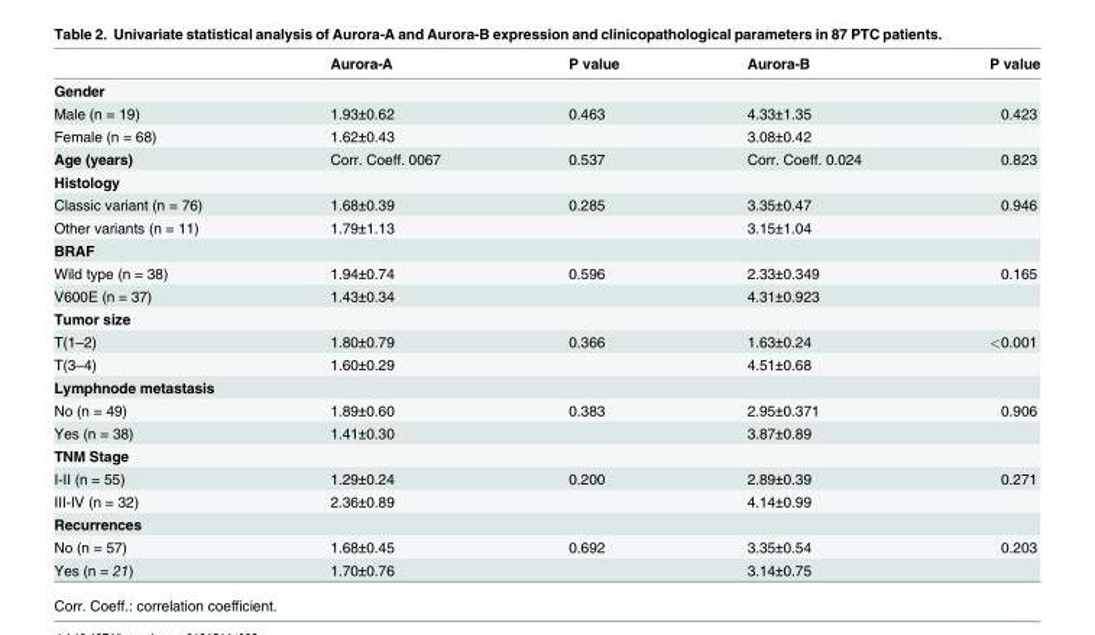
<table><thead><tr><td></td><td>Aurora-A</td><td>P value</td><td>Aurora-B</td><td>P value</td></tr></thead><tbody><tr><td colspan="5">Gender</td></tr><tr><td>Male (n = 19)</td><td>1.93±0.62</td><td>0.463</td><td>4.33±1.35</td><td>0.423</td></tr><tr><td>Female (n = 68)</td><td>1.62±0.43</td><td></td><td>3.08±0.42</td><td></td></tr><tr><td>Age (years)</td><td>Corr. Coeff. 0067</td><td>0.537</td><td>Corr. Coeff. 0.024</td><td>0.823</td></tr><tr><td colspan="5">Histology</td></tr><tr><td>Classic variant (n = 76)</td><td>1.68±0.39</td><td>0.285</td><td>3.35±0.47</td><td>0.946</td></tr><tr><td>Other variants (n = 11)</td><td>1.79±1.13</td><td></td><td>3.15±1.04</td><td></td></tr><tr><td colspan="5">BRAF</td></tr><tr><td>Wild type (n = 38)</td><td>1.94±0.74</td><td>0.596</td><td>2.33±0.349</td><td>0.165</td></tr><tr><td>V600E (n = 37)</td><td>1.43±0.34</td><td></td><td>4.31±0.923</td><td></td></tr><tr><td colspan="5">Tumor size</td></tr><tr><td>T(1–2)</td><td>1.80±0.79</td><td>0.366</td><td>1.63±0.24</td><td>&lt;0.001</td></tr><tr><td>T(3–4)</td><td>1.60±0.29</td><td></td><td>4.51±0.68</td><td></td></tr><tr><td colspan="5">Lymphnode metastasis</td></tr><tr><td>No (n = 49)</td><td>1.89±0.60</td><td>0.383</td><td>2.95±0.371</td><td>0.906</td></tr><tr><td>Yes (n = 38)</td><td>1.41±0.30</td><td></td><td>3.87±0.89</td><td></td></tr><tr><td colspan="5">TNM Stage</td></tr><tr><td>I-II (n = 55)</td><td>1.29±0.24</td><td>0.200</td><td>2.89±0.39</td><td>0.271</td></tr><tr><td>III-IV (n = 32)</td><td>2.36±0.89</td><td></td><td>4.14±0.99</td><td></td></tr><tr><td colspan="5">Recurrences</td></tr><tr><td>No (n = 57)</td><td>1.68±0.45</td><td>0.692</td><td>3.35±0.54</td><td>0.203</td></tr><tr><td>Yes (n = 21)</td><td>1.70±0.76</td><td></td><td>3.14±0.75</td><td></td></tr></tbody></table>